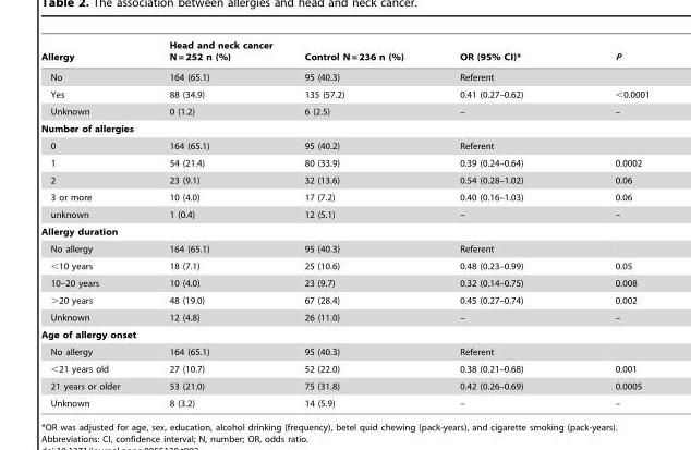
<table><thead><tr><td>Allergy</td><td>Head and neck cancer N = 252 n (%)</td><td>Control N = 236 n (%)</td><td>OR (95% CI)*</td><td>P</td></tr></thead><tbody><tr><td>No</td><td>164 (65.1)</td><td>95 (40.3)</td><td>Referent</td><td></td></tr><tr><td>Yes</td><td>88 (34.9)</td><td>135 (57.2)</td><td>0.41 (0.27–0.62)</td><td>&lt;0.0001</td></tr><tr><td>Unknown</td><td>0 (1.2)</td><td>6 (2.5)</td><td>–</td><td>–</td></tr><tr><td colspan="5">Number of allergies</td></tr><tr><td>0</td><td>164 (65.1)</td><td>95 (40.2)</td><td>Referent</td><td></td></tr><tr><td>1</td><td>54 (21.4)</td><td>80 (33.9)</td><td>0.39 (0.24–0.64)</td><td>0.0002</td></tr><tr><td>2</td><td>23 (9.1)</td><td>32 (13.6)</td><td>0.54 (0.28–1.02)</td><td>0.06</td></tr><tr><td>3 or more</td><td>10 (4.0)</td><td>17 (7.2)</td><td>0.40 (0.16–1.03)</td><td>0.06</td></tr><tr><td>unknown</td><td>1 (0.4)</td><td>12 (5.1)</td><td>–</td><td>–</td></tr><tr><td colspan="5">Allergy duration</td></tr><tr><td>No allergy</td><td>164 (65.1)</td><td>95 (40.3)</td><td>Referent</td><td></td></tr><tr><td>&lt;10 years</td><td>18 (7.1)</td><td>25 (10.6)</td><td>0.48 (0.23–0.99)</td><td>0.05</td></tr><tr><td>10–20 years</td><td>10 (4.0)</td><td>23 (9.7)</td><td>0.32 (0.14–0.75)</td><td>0.008</td></tr><tr><td>&gt;20 years</td><td>48 (19.0)</td><td>67 (28.4)</td><td>0.45 (0.27–0.74)</td><td>0.002</td></tr><tr><td>Unknown</td><td>12 (4.8)</td><td>26 (11.0)</td><td>–</td><td>–</td></tr><tr><td colspan="5">Age of allergy onset</td></tr><tr><td>No allergy</td><td>164 (65.1)</td><td>95 (40.3)</td><td>Referent</td><td></td></tr><tr><td>&lt;21 years old</td><td>27 (10.7)</td><td>52 (22.0)</td><td>0.38 (0.21–0.68)</td><td>0.001</td></tr><tr><td>21 years or older</td><td>53 (21.0)</td><td>75 (31.8)</td><td>0.42 (0.26–0.69)</td><td>0.0005</td></tr><tr><td>Unknown</td><td>8 (3.2)</td><td>14 (5.9)</td><td>–</td><td>–</td></tr></tbody></table>